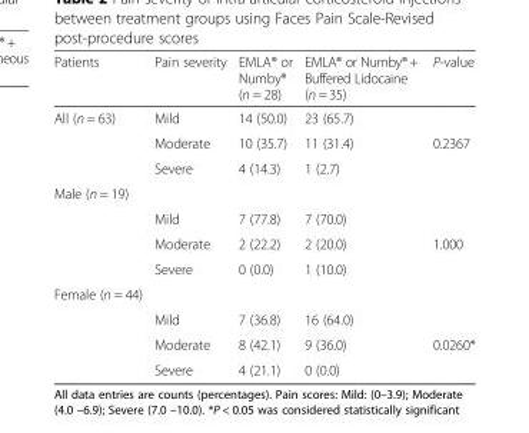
<table><thead><tr><td>Patients</td><td>Pain severity</td><td>EMLA® or Numby® (n = 28)</td><td>EMLA® or Numby® + Buffered Lidocaine (n = 35)</td><td>P-value</td></tr></thead><tbody><tr><td rowspan="3">All (n = 63)</td><td>Mild</td><td>14 (50.0)</td><td>23 (65.7)</td><td></td></tr><tr><td>Moderate</td><td>10 (35.7)</td><td>11 (31.4)</td><td>0.2367</td></tr><tr><td>Severe</td><td>4 (14.3)</td><td>1 (2.7)</td><td></td></tr><tr><td colspan="5">Male (n = 19)</td></tr><tr><td></td><td>Mild</td><td>7 (77.8)</td><td>7 (70.0)</td><td></td></tr><tr><td></td><td>Moderate</td><td>2 (22.2)</td><td>2 (20.0)</td><td>1.000</td></tr><tr><td></td><td>Severe</td><td>0 (0.0)</td><td>1 (10.0)</td><td></td></tr><tr><td colspan="5">Female (n = 44)</td></tr><tr><td></td><td>Mild</td><td>7 (36.8)</td><td>16 (64.0)</td><td></td></tr><tr><td></td><td>Moderate</td><td>8 (42.1)</td><td>9 (36.0)</td><td>0.0260*</td></tr><tr><td></td><td>Severe</td><td>4 (21.1)</td><td>0 (0.0)</td><td></td></tr></tbody></table>